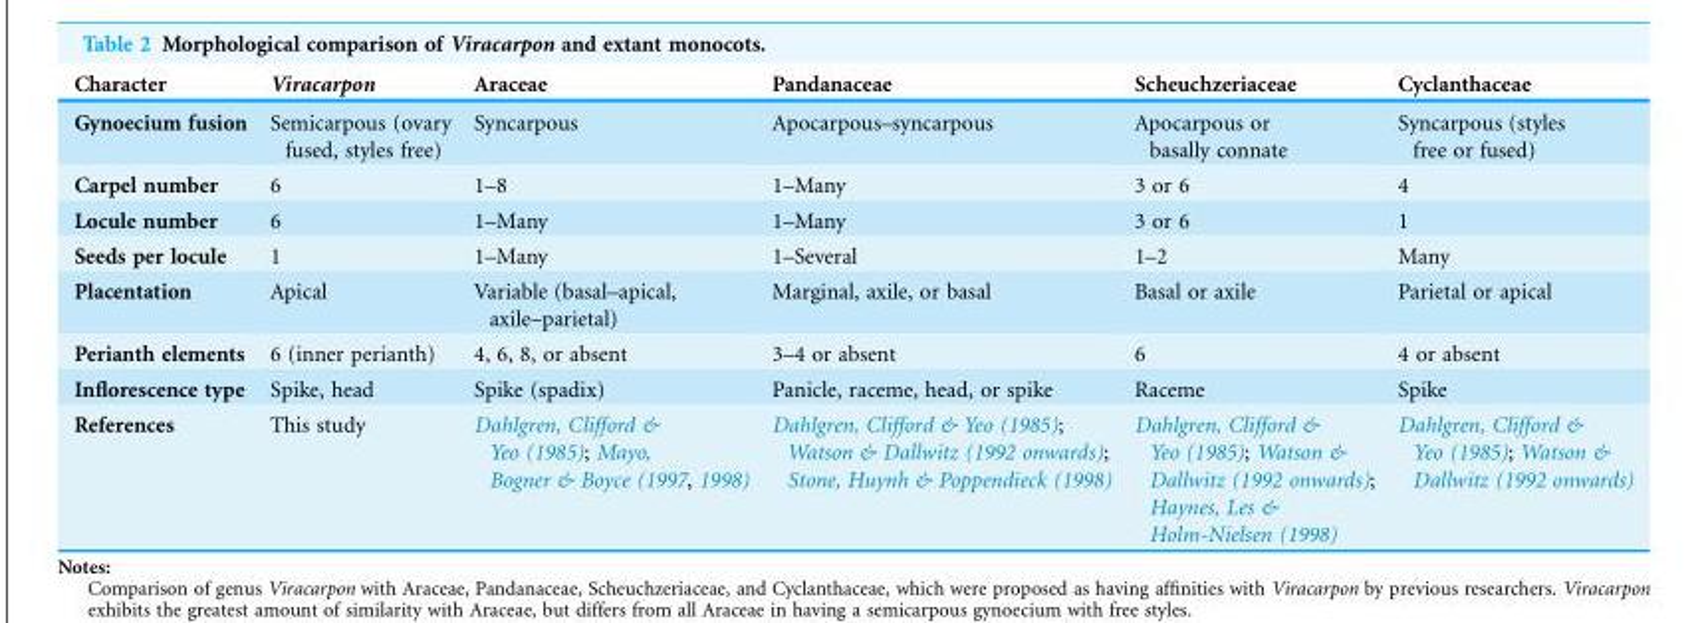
<table><thead><tr><td>Character</td><td>Viracarpon</td><td>Araceae</td><td>Pandanaceae</td><td>Scheuchzeriaceae</td><td>Cyclanthaceae</td></tr></thead><tbody><tr><td>Gynoecium fusion</td><td>Semicarpous (ovary fused, styles free)</td><td>Syncarpous</td><td>Apocarpous–syncarpous</td><td>Apocarpous or basally connate</td><td>Syncarpous (styles free or fused)</td></tr><tr><td>Carpel number</td><td>6</td><td>1–8</td><td>1–Many</td><td>3 or 6</td><td>4</td></tr><tr><td>Locule number</td><td>6</td><td>1–Many</td><td>1–Many</td><td>3 or 6</td><td>1</td></tr><tr><td>Seeds per locule</td><td>1</td><td>1–Many</td><td>1–Several</td><td>1–2</td><td>Many</td></tr><tr><td>Placentation</td><td>Apical</td><td>Variable (basal–apical, axile–parietal)</td><td>Marginal, axile, or basal</td><td>Basal or axile</td><td>Parietal or apical</td></tr><tr><td>Perianth elements</td><td>6 (inner perianth)</td><td>4, 6, 8, or absent</td><td>3–4 or absent</td><td>6</td><td>4 or absent</td></tr><tr><td>Inflorescence type</td><td>Spike, head</td><td>Spike (spadix)</td><td>Panicle, raceme, head, or spike</td><td>Raceme</td><td>Spike</td></tr><tr><td>References</td><td>This study</td><td>Dahlgren, Clifford &amp; Yeo (1985); Mayo, Bogner &amp; Boyce (1997, 1998)</td><td>Dahlgren, Clifford &amp; Yeo (1985); Watson &amp; Dallwitz (1992 onwards); Stone, Huynh &amp; Poppendieck (1998)</td><td>Dahlgren, Clifford &amp; Yeo (1985); Watson &amp; Dallwitz (1992 onwards); Haynes, Les &amp; Holm-Nielsen (1998)</td><td>Dahlgren, Clifford &amp; Yeo (1985); Watson &amp; Dallwitz (1992 onwards)</td></tr></tbody></table>